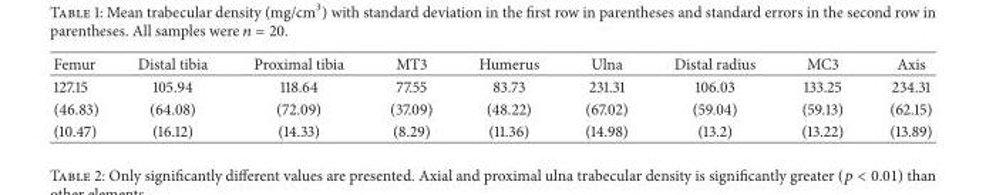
<table><thead><tr><td>Femur</td><td>Distal tibia</td><td>Proximal tibia</td><td>MT3</td><td>Humerus</td><td>Ulna</td><td>Distal radius</td><td>MC3</td><td>Axis</td></tr></thead><tbody><tr><td>127.15</td><td>105.94</td><td>118.64</td><td>77.55</td><td>83.73</td><td>231.31</td><td>106.03</td><td>133.25</td><td>234.31</td></tr><tr><td>(46.83)</td><td>(64.08)</td><td>(72.09)</td><td>(37.09)</td><td>(48.22)</td><td>(67.02)</td><td>(59.04)</td><td>(59.13)</td><td>(62.15)</td></tr><tr><td>(10.47)</td><td>(16.12)</td><td>(14.33)</td><td>(8.29)</td><td>(11.36)</td><td>(14.98)</td><td>(13.2)</td><td>(13.22)</td><td>(13.89)</td></tr></tbody></table>